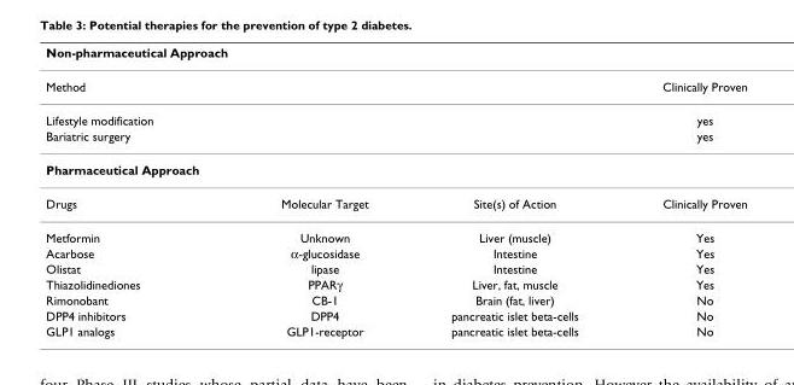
<table><thead><tr><td colspan="4">Non-pharmaceutical Approach</td></tr></thead><tbody><tr><td colspan="2">Method</td><td></td><td>Clinically Proven</td></tr><tr><td colspan="2">Lifestyle modification</td><td></td><td>yes</td></tr><tr><td colspan="2">Bariatric surgery</td><td></td><td>yes</td></tr><tr><td colspan="4">Pharmaceutical Approach</td></tr><tr><td>Drugs</td><td>Molecular Target</td><td>Site(s) of Action</td><td>Clinically Proven</td></tr><tr><td>Metformin</td><td>Unknown</td><td>Liver (muscle)</td><td>Yes</td></tr><tr><td>Acarbose</td><td>α-glucosidase</td><td>Intestine</td><td>Yes</td></tr><tr><td>Olistat</td><td>lipase</td><td>Intestine</td><td>Yes</td></tr><tr><td>Thiazolidinediones</td><td>PPARγ</td><td>Liver, fat, muscle</td><td>Yes</td></tr><tr><td>Rimonobant</td><td>CB-1</td><td>Brain (fat, liver)</td><td>No</td></tr><tr><td>DPP4 inhibitors</td><td>DPP4</td><td>pancreatic islet beta-cells</td><td>No</td></tr><tr><td>GLP1 analogs</td><td>GLP1-receptor</td><td>pancreatic islet beta-cells</td><td>No</td></tr></tbody></table>